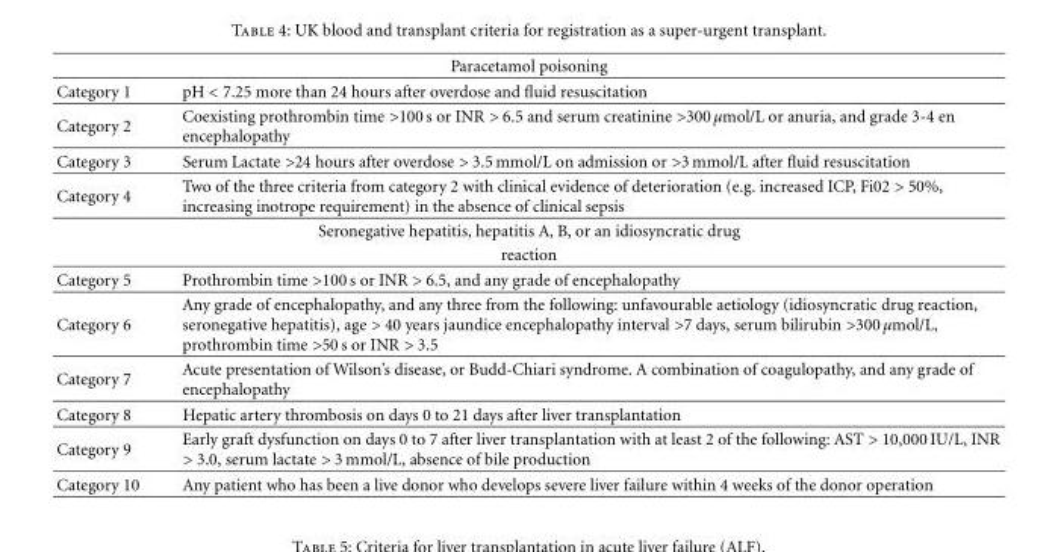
<table><thead><tr><td colspan="2">Paracetamol poisoning</td></tr><tr><td>Category 1</td><td>pH &lt; 7.25 more than 24 hours after overdose and fluid resuscitation</td></tr></thead><tbody><tr><td>Category 2</td><td>Coexisting prothrombin time &gt;100 s or INR &gt; 6.5 and serum creatinine &gt;300 μmol/L or anuria, and grade 3-4 en encephalopathy</td></tr><tr><td>Category 3</td><td>Serum Lactate &gt;24 hours after overdose &gt; 3.5 mmol/L on admission or &gt;3 mmol/L after fluid resuscitation</td></tr><tr><td>Category 4</td><td>Two of the three criteria from category 2 with clinical evidence of deterioration (e.g. increased ICP, Fi02 &gt; 50%, increasing inotrope requirement) in the absence of clinical sepsis</td></tr><tr><td colspan="2">Seronegative hepatitis, hepatitis A, B, or an idiosyncratic drug</td></tr><tr><td colspan="2">reaction</td></tr><tr><td>Category 5</td><td>Prothrombin time &gt;100 s or INR &gt; 6.5, and any grade of encephalopathy</td></tr><tr><td>Category 6</td><td>Any grade of encephalopathy, and any three from the following: unfavourable aetiology (idiosyncratic drug reaction, seronegative hepatitis), age &gt; 40 years jaundice encephalopathy interval &gt;7 days, serum bilirubin &gt;300 μmol/L, prothrombin time &gt;50 s or INR &gt; 3.5</td></tr><tr><td>Category 7</td><td>Acute presentation of Wilson’s disease, or Budd-Chiari syndrome. A combination of coagulopathy, and any grade of encephalopathy</td></tr><tr><td>Category 8</td><td>Hepatic artery thrombosis on days 0 to 21 days after liver transplantation</td></tr><tr><td>Category 9</td><td>Early graft dysfunction on days 0 to 7 after liver transplantation with at least 2 of the following: AST &gt; 10,000 IU/L, INR &gt; 3.0, serum lactate &gt; 3 mmol/L, absence of bile production</td></tr><tr><td>Category 10</td><td>Any patient who has been a live donor who develops severe liver failure within 4 weeks of the donor operation</td></tr></tbody></table>